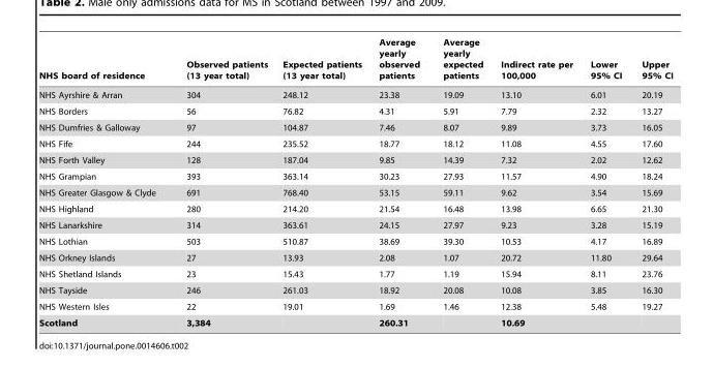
<table><thead><tr><td>NHS board of residence</td><td>Observed patients (13 year total)</td><td>Expected patients (13 year total)</td><td>Average yearly observed patients</td><td>Average yearly expected patients</td><td>Indirect rate per 100,000</td><td>Lower 95% CI</td><td>Upper 95% CI</td></tr></thead><tbody><tr><td>NHS Ayrshire &amp; Arran</td><td>304</td><td>248.12</td><td>23.38</td><td>19.09</td><td>13.10</td><td>6.01</td><td>20.19</td></tr><tr><td>NHS Borders</td><td>56</td><td>76.82</td><td>4.31</td><td>5.91</td><td>7.79</td><td>2.32</td><td>13.27</td></tr><tr><td>NHS Dumfries &amp; Galloway</td><td>97</td><td>104.87</td><td>7.46</td><td>8.07</td><td>9.89</td><td>3.73</td><td>16.05</td></tr><tr><td>NHS Fife</td><td>244</td><td>235.52</td><td>18.77</td><td>18.12</td><td>11.08</td><td>4.55</td><td>17.60</td></tr><tr><td>NHS Forth Valley</td><td>128</td><td>187.04</td><td>9.85</td><td>14.39</td><td>7.32</td><td>2.02</td><td>12.62</td></tr><tr><td>NHS Grampian</td><td>393</td><td>363.14</td><td>30.23</td><td>27.93</td><td>11.57</td><td>4.90</td><td>18.24</td></tr><tr><td>NHS Greater Glasgow &amp; Clyde</td><td>691</td><td>768.40</td><td>53.15</td><td>59.11</td><td>9.62</td><td>3.54</td><td>15.69</td></tr><tr><td>NHS Highland</td><td>280</td><td>214.20</td><td>21.54</td><td>16.48</td><td>13.98</td><td>6.65</td><td>21.30</td></tr><tr><td>NHS Lanarkshire</td><td>314</td><td>363.61</td><td>24.15</td><td>27.97</td><td>9.23</td><td>3.28</td><td>15.19</td></tr><tr><td>NHS Lothian</td><td>503</td><td>510.87</td><td>38.69</td><td>39.30</td><td>10.53</td><td>4.17</td><td>16.89</td></tr><tr><td>NHS Orkney Islands</td><td>27</td><td>13.93</td><td>2.08</td><td>1.07</td><td>20.72</td><td>11.80</td><td>29.64</td></tr><tr><td>NHS Shetland Islands</td><td>23</td><td>15.43</td><td>1.77</td><td>1.19</td><td>15.94</td><td>8.11</td><td>23.76</td></tr><tr><td>NHS Tayside</td><td>246</td><td>261.03</td><td>18.92</td><td>20.08</td><td>10.08</td><td>3.85</td><td>16.30</td></tr><tr><td>NHS Western Isles</td><td>22</td><td>19.01</td><td>1.69</td><td>1.46</td><td>12.38</td><td>5.48</td><td>19.27</td></tr><tr><td>Scotland</td><td>3,384</td><td></td><td>260.31</td><td></td><td>10.69</td><td></td><td></td></tr></tbody></table>